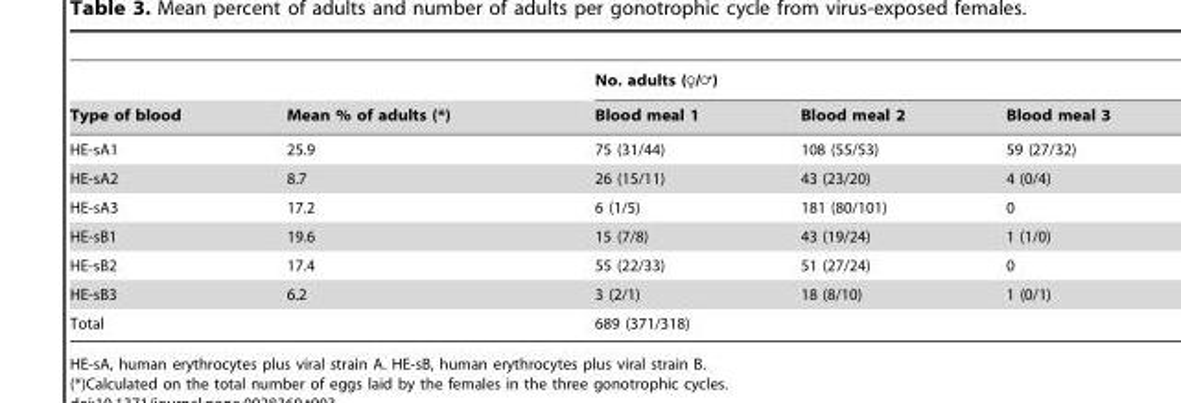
<table><thead><tr><td rowspan="2">Type of blood</td><td rowspan="2">Mean % of adults (*)</td><td colspan="3">No. adults (R/=)</td></tr><tr><td>Blood meal 1</td><td>Blood meal 2</td><td>Blood meal 3</td></tr></thead><tbody><tr><td>HE-sA1</td><td>25.9</td><td>75 (31/44)</td><td>108 (55/53)</td><td>59 (27/32)</td></tr><tr><td>HE-sA2</td><td>8.7</td><td>26 (15/11)</td><td>43 (23/20)</td><td>4 (0/4)</td></tr><tr><td>HE-sA3</td><td>17.2</td><td>6 (1/5)</td><td>181 (80/101)</td><td>0</td></tr><tr><td>HE-sB1</td><td>19.6</td><td>15 (7/8)</td><td>43 (19/24)</td><td>1 (1/0)</td></tr><tr><td>HE-sB2</td><td>17.4</td><td>55 (22/33)</td><td>51 (27/24)</td><td>0</td></tr><tr><td>HE-sB3</td><td>6.2</td><td>3 (2/1)</td><td>18 (8/10)</td><td>1 (0/1)</td></tr><tr><td>Total</td><td></td><td colspan="3">689 (371/318)</td></tr></tbody></table>